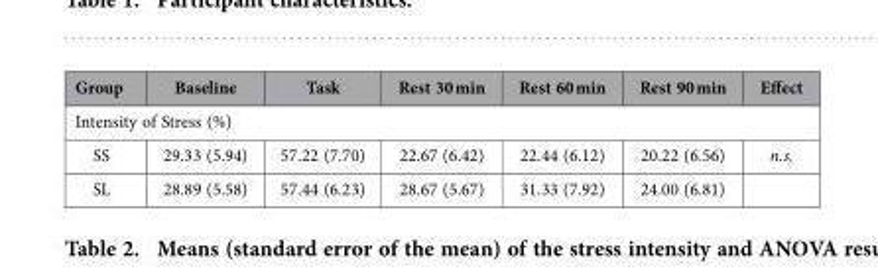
<table><thead><tr><td>Group</td><td>Baseline</td><td>Task</td><td>Rest 30 min</td><td>Rest 60 min</td><td>Rest 90 min</td><td>Effect</td></tr></thead><tbody><tr><td colspan="7">Intensity of Stress (%)</td></tr><tr><td>SS</td><td>29.33 (5.94)</td><td>57.22 (7.70)</td><td>22.67 (6.42)</td><td>22.44 (6.12)</td><td>20.22 (6.56)</td><td>n.s.</td></tr><tr><td>SL</td><td>28.89 (5.58)</td><td>57.44 (6.23)</td><td>28.67 (5.67)</td><td>31.33 (7.92)</td><td>24.00 (6.81)</td><td></td></tr></tbody></table>